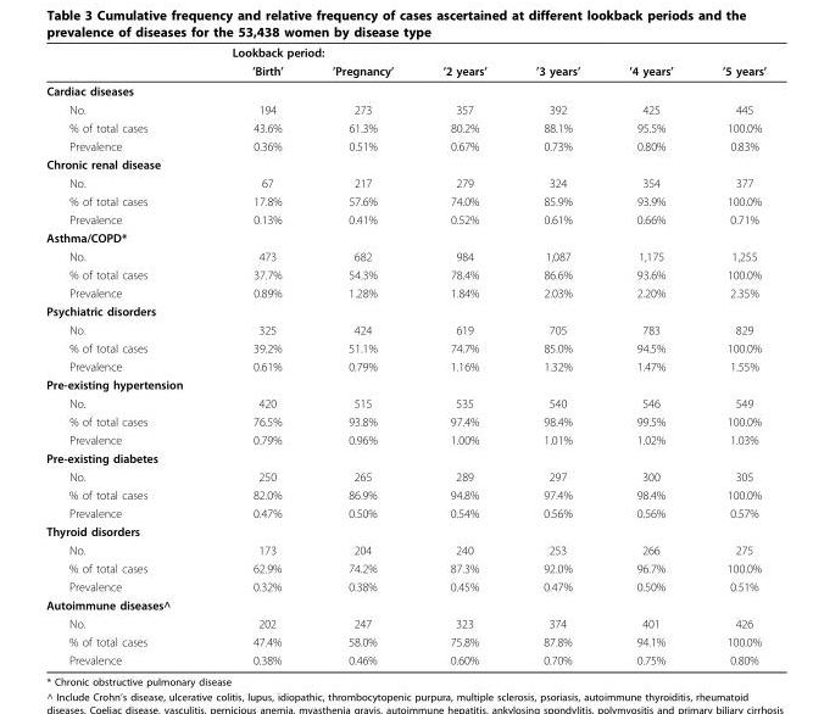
<table><thead><tr><td rowspan="2"></td><td colspan="2">Lookback period:</td><td rowspan="2">’2 years’</td><td rowspan="2">’3 years’</td><td rowspan="2">’4 years’</td><td rowspan="2">’5 years’</td></tr><tr><td>’Birth’</td><td>’Pregnancy’</td></tr></thead><tbody><tr><td colspan="7">Cardiac diseases</td></tr><tr><td>No.</td><td>194</td><td>273</td><td>357</td><td>392</td><td>425</td><td>445</td></tr><tr><td>% of total cases</td><td>43.6%</td><td>61.3%</td><td>80.2%</td><td>88.1%</td><td>95.5%</td><td>100.0%</td></tr><tr><td>Prevalence</td><td>0.36%</td><td>0.51%</td><td>0.67%</td><td>0.73%</td><td>0.80%</td><td>0.83%</td></tr><tr><td colspan="7">Chronic renal disease</td></tr><tr><td>No.</td><td>67</td><td>217</td><td>279</td><td>324</td><td>354</td><td>377</td></tr><tr><td>% of total cases</td><td>17.8%</td><td>57.6%</td><td>74.0%</td><td>85.9%</td><td>93.9%</td><td>100.0%</td></tr><tr><td>Prevalence</td><td>0.13%</td><td>0.41%</td><td>0.52%</td><td>0.61%</td><td>0.66%</td><td>0.71%</td></tr><tr><td colspan="7">Asthma/COPD*</td></tr><tr><td>No.</td><td>473</td><td>682</td><td>984</td><td>1,087</td><td>1,175</td><td>1,255</td></tr><tr><td>% of total cases</td><td>37.7%</td><td>54.3%</td><td>78.4%</td><td>86.6%</td><td>93.6%</td><td>100.0%</td></tr><tr><td>Prevalence</td><td>0.89%</td><td>1.28%</td><td>1.84%</td><td>2.03%</td><td>2.20%</td><td>2.35%</td></tr><tr><td colspan="7">Psychiatric disorders</td></tr><tr><td>No.</td><td>325</td><td>424</td><td>619</td><td>705</td><td>783</td><td>829</td></tr><tr><td>% of total cases</td><td>39.2%</td><td>51.1%</td><td>74.7%</td><td>85.0%</td><td>94.5%</td><td>100.0%</td></tr><tr><td>Prevalence</td><td>0.61%</td><td>0.79%</td><td>1.16%</td><td>1.32%</td><td>1.47%</td><td>1.55%</td></tr><tr><td colspan="7">Pre-existing hypertension</td></tr><tr><td>No.</td><td>420</td><td>515</td><td>535</td><td>540</td><td>546</td><td>549</td></tr><tr><td>% of total cases</td><td>76.5%</td><td>93.8%</td><td>97.4%</td><td>98.4%</td><td>99.5%</td><td>100.0%</td></tr><tr><td>Prevalence</td><td>0.79%</td><td>0.96%</td><td>1.00%</td><td>1.01%</td><td>1.02%</td><td>1.03%</td></tr><tr><td colspan="7">Pre-existing diabetes</td></tr><tr><td>No.</td><td>250</td><td>265</td><td>289</td><td>297</td><td>300</td><td>305</td></tr><tr><td>% of total cases</td><td>82.0%</td><td>86.9%</td><td>94.8%</td><td>97.4%</td><td>98.4%</td><td>100.0%</td></tr><tr><td>Prevalence</td><td>0.47%</td><td>0.50%</td><td>0.54%</td><td>0.56%</td><td>0.56%</td><td>0.57%</td></tr><tr><td colspan="7">Thyroid disorders</td></tr><tr><td>No.</td><td>173</td><td>204</td><td>240</td><td>253</td><td>266</td><td>275</td></tr><tr><td>% of total cases</td><td>62.9%</td><td>74.2%</td><td>87.3%</td><td>92.0%</td><td>96.7%</td><td>100.0%</td></tr><tr><td>Prevalence</td><td>0.32%</td><td>0.38%</td><td>0.45%</td><td>0.47%</td><td>0.50%</td><td>0.51%</td></tr><tr><td colspan="7">Autoimmune diseases^</td></tr><tr><td>No.</td><td>202</td><td>247</td><td>323</td><td>374</td><td>401</td><td>426</td></tr><tr><td>% of total cases</td><td>47.4%</td><td>58.0%</td><td>75.8%</td><td>87.8%</td><td>94.1%</td><td>100.0%</td></tr><tr><td>Prevalence</td><td>0.38%</td><td>0.46%</td><td>0.60%</td><td>0.70%</td><td>0.75%</td><td>0.80%</td></tr></tbody></table>